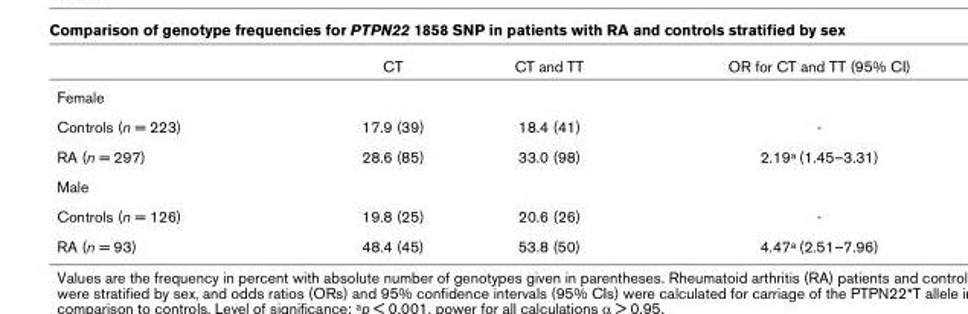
<table><thead><tr><td></td><td>CT</td><td>CT and TT</td><td>OR for CT and TT (95% CI)</td></tr></thead><tbody><tr><td colspan="4">Female</td></tr><tr><td>Controls (n = 223)</td><td>17.9 (39)</td><td>18.4 (41)</td><td>-</td></tr><tr><td>RA (n = 297)</td><td>28.6 (85)</td><td>33.0 (98)</td><td>2.19a (1.45–3.31)</td></tr><tr><td colspan="4">Male</td></tr><tr><td>Controls (n = 126)</td><td>19.8 (25)</td><td>20.6 (26)</td><td>-</td></tr><tr><td>RA (n = 93)</td><td>48.4 (45)</td><td>53.8 (50)</td><td>4.47a (2.51–7.96)</td></tr></tbody></table>